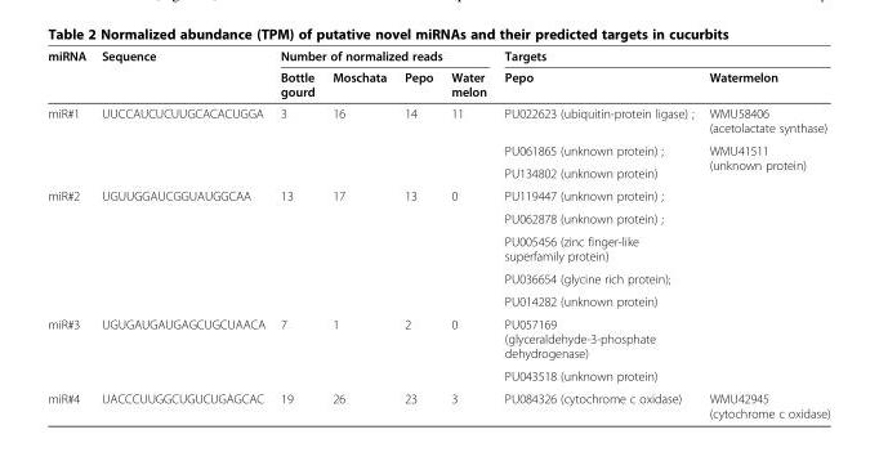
<table><thead><tr><td rowspan="2">miRNA</td><td rowspan="2">Sequence</td><td colspan="4">Number of normalized reads</td><td colspan="2">Targets</td></tr><tr><td>Bottle gourd</td><td>Moschata</td><td>Pepo</td><td>Water melon</td><td>Pepo</td><td>Watermelon</td></tr></thead><tbody><tr><td rowspan="3">miR#1</td><td rowspan="3">UUCCAUCUCUUGCACACUGGA</td><td rowspan="3">3</td><td rowspan="3">16</td><td rowspan="3">14</td><td rowspan="3">11</td><td>PU022623 (ubiquitin-protein ligase) ;</td><td>WMU58406 (acetolactate synthase)</td></tr><tr><td>PU061865 (unknown protein) ;</td><td rowspan="2">WMU41511 (unknown protein)</td></tr><tr><td>PU134802 (unknown protein)</td></tr><tr><td rowspan="5">miR#2</td><td rowspan="5">UGUUGGAUCGGUAUGGCAA</td><td rowspan="5">13</td><td rowspan="5">17</td><td rowspan="5">13</td><td rowspan="5">0</td><td>PU119447 (unknown protein) ;</td><td rowspan="5"></td></tr><tr><td>PU062878 (unknown protein) ;</td></tr><tr><td>PU005456 (zinc finger-like superfamily protein)</td></tr><tr><td>PU036654 (glycine rich protein);</td></tr><tr><td>PU014282 (unknown protein)</td></tr><tr><td rowspan="2">miR#3</td><td rowspan="2">UGUGAUGAUGAGCUGCUAACA</td><td rowspan="2">7</td><td rowspan="2">1</td><td rowspan="2">2</td><td rowspan="2">0</td><td>PU057169 (glyceraldehyde-3-phosphate dehydrogenase)</td><td rowspan="2"></td></tr><tr><td>PU043518 (unknown protein)</td></tr><tr><td>miR#4</td><td>UACCCUUGGCUGUCUGAGCAC</td><td>19</td><td>26</td><td>23</td><td>3</td><td>PU084326 (cytochrome c oxidase)</td><td>WMU42945 (cytochrome c oxidase)</td></tr></tbody></table>